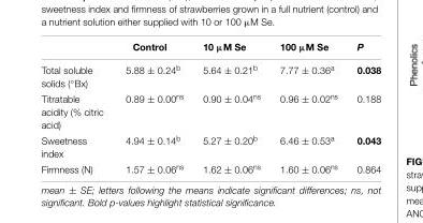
<table><thead><tr><td></td><td>Control</td><td>10 µM Se</td><td>100 µM Se</td><td>P</td></tr></thead><tbody><tr><td>Total soluble solids (◦Bx)</td><td>5.88 ± 0.24<sup>b</sup></td><td>5.64 ± 0.21<sup>b</sup></td><td>7.77 ± 0.36<sup>a</sup></td><td>0.038</td></tr><tr><td>Titratable acidity (% citric acid)</td><td>0.89 ± 0.00<sup>ns</sup></td><td>0.90 ± 0.04<sup>ns</sup></td><td>0.96 ± 0.02<sup>ns</sup></td><td>0.188</td></tr><tr><td>Sweetness index</td><td>4.94 ± 0.14<sup>b</sup></td><td>5.27 ± 0.20<sup>b</sup></td><td>6.46 ± 0.53<sup>a</sup></td><td>0.043</td></tr><tr><td>Firmness (N)</td><td>1.57 ± 0.06<sup>ns</sup></td><td>1.62 ± 0.06<sup>ns</sup></td><td>1.60 ± 0.06<sup>ns</sup></td><td>0.864</td></tr></tbody></table>